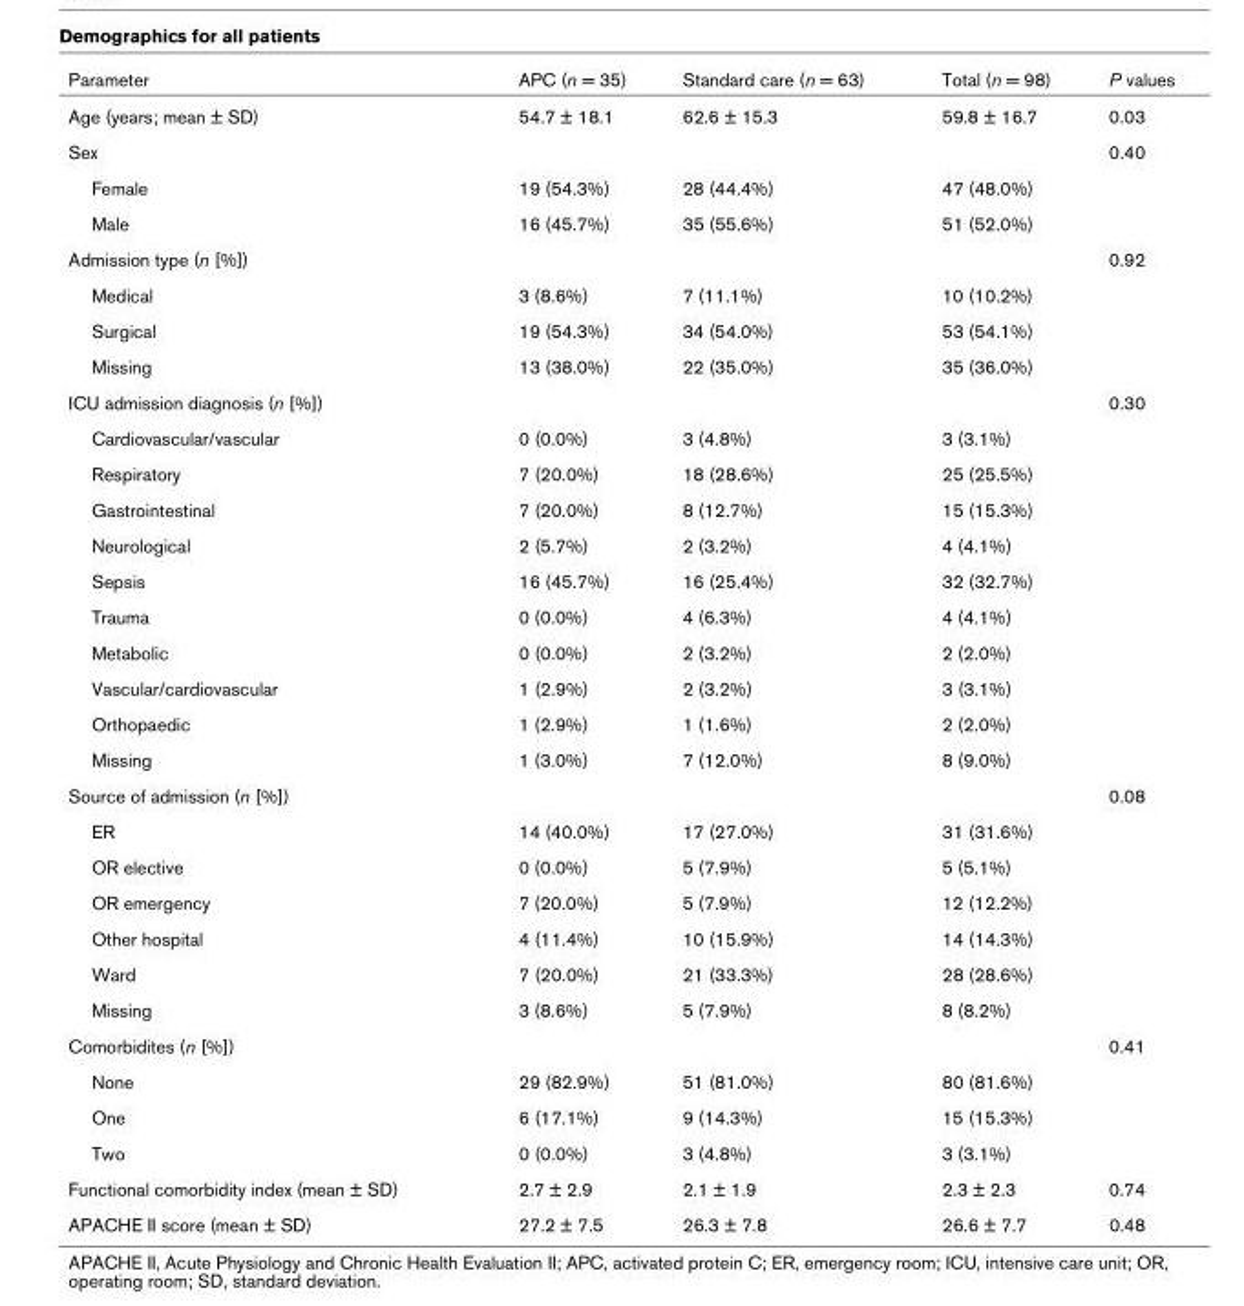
<table><thead><tr><td>Parameter</td><td>APC (n = 35)</td><td>Standard care (n = 63)</td><td>Total (n = 98)</td><td>P values</td></tr></thead><tbody><tr><td>Age (years; mean ± SD)</td><td>54.7 ± 18.1</td><td>62.6 ± 15.3</td><td>59.8 ± 16.7</td><td>0.03</td></tr><tr><td>Sex</td><td></td><td></td><td></td><td>0.40</td></tr><tr><td>Female</td><td>19 (54.3%)</td><td>28 (44.4%)</td><td>47 (48.0%)</td><td></td></tr><tr><td>Male</td><td>16 (45.7%)</td><td>35 (55.6%)</td><td>51 (52.0%)</td><td></td></tr><tr><td>Admission type (n [%])</td><td></td><td></td><td></td><td>0.92</td></tr><tr><td>Medical</td><td>3 (8.6%)</td><td>7 (11.1%)</td><td>10 (10.2%)</td><td></td></tr><tr><td>Surgical</td><td>19 (54.3%)</td><td>34 (54.0%)</td><td>53 (54.1%)</td><td></td></tr><tr><td>Missing</td><td>13 (38.0%)</td><td>22 (35.0%)</td><td>35 (36.0%)</td><td></td></tr><tr><td>ICU admission diagnosis (n [%])</td><td></td><td></td><td></td><td>0.30</td></tr><tr><td>Cardiovascular/vascular</td><td>0 (0.0%)</td><td>3 (4.8%)</td><td>3 (3.1%)</td><td></td></tr><tr><td>Respiratory</td><td>7 (20.0%)</td><td>18 (28.6%)</td><td>25 (25.5%)</td><td></td></tr><tr><td>Gastrointestinal</td><td>7 (20.0%)</td><td>8 (12.7%)</td><td>15 (15.3%)</td><td></td></tr><tr><td>Neurological</td><td>2 (5.7%)</td><td>2 (3.2%)</td><td>4 (4.1%)</td><td></td></tr><tr><td>Sepsis</td><td>16 (45.7%)</td><td>16 (25.4%)</td><td>32 (32.7%)</td><td></td></tr><tr><td>Trauma</td><td>0 (0.0%)</td><td>4 (6.3%)</td><td>4 (4.1%)</td><td></td></tr><tr><td>Metabolic</td><td>0 (0.0%)</td><td>2 (3.2%)</td><td>2 (2.0%)</td><td></td></tr><tr><td>Vascular/cardiovascular</td><td>1 (2.9%)</td><td>2 (3.2%)</td><td>3 (3.1%)</td><td></td></tr><tr><td>Orthopaedic</td><td>1 (2.9%)</td><td>1 (1.6%)</td><td>2 (2.0%)</td><td></td></tr><tr><td>Missing</td><td>1 (3.0%)</td><td>7 (12.0%)</td><td>8 (9.0%)</td><td></td></tr><tr><td>Source of admission (n [%])</td><td></td><td></td><td></td><td>0.08</td></tr><tr><td>ER</td><td>14 (40.0%)</td><td>17 (27.0%)</td><td>31 (31.6%)</td><td></td></tr><tr><td>OR elective</td><td>0 (0.0%)</td><td>5 (7.9%)</td><td>5 (5.1%)</td><td></td></tr><tr><td>OR emergency</td><td>7 (20.0%)</td><td>5 (7.9%)</td><td>12 (12.2%)</td><td></td></tr><tr><td>Other hospital</td><td>4 (11.4%)</td><td>10 (15.9%)</td><td>14 (14.3%)</td><td></td></tr><tr><td>Ward</td><td>7 (20.0%)</td><td>21 (33.3%)</td><td>28 (28.6%)</td><td></td></tr><tr><td>Missing</td><td>3 (8.6%)</td><td>5 (7.9%)</td><td>8 (8.2%)</td><td></td></tr><tr><td>Comorbidites (n [%])</td><td></td><td></td><td></td><td>0.41</td></tr><tr><td>None</td><td>29 (82.9%)</td><td>51 (81.0%)</td><td>80 (81.6%)</td><td></td></tr><tr><td>One</td><td>6 (17.1%)</td><td>9 (14.3%)</td><td>15 (15.3%)</td><td></td></tr><tr><td>Two</td><td>0 (0.0%)</td><td>3 (4.8%)</td><td>3 (3.1%)</td><td></td></tr><tr><td>Functional comorbidity index (mean ± SD)</td><td>2.7 ± 2.9</td><td>2.1 ± 1.9</td><td>2.3 ± 2.3</td><td>0.74</td></tr><tr><td>APACHE II score (mean ± SD)</td><td>27.2 ± 7.5</td><td>26.3 ± 7.8</td><td>26.6 ± 7.7</td><td>0.48</td></tr></tbody></table>